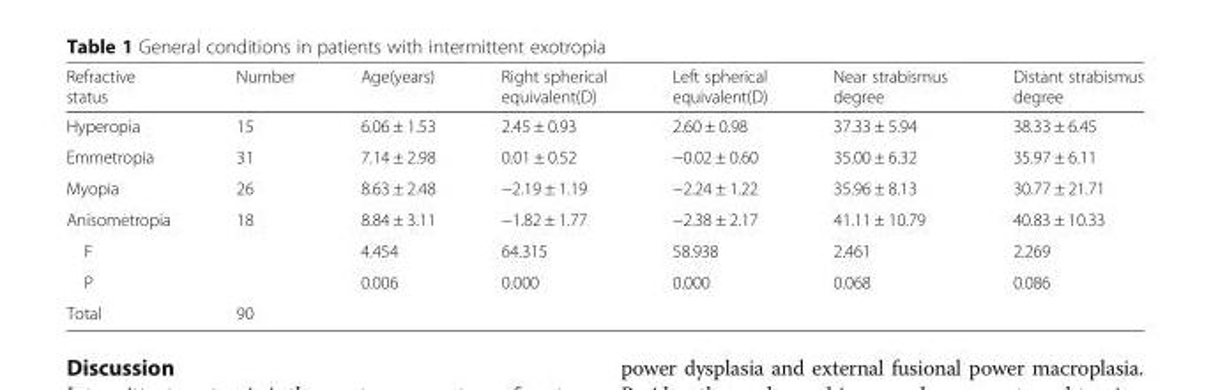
<table><thead><tr><td>Refractive status</td><td>Number</td><td>Age(years)</td><td>Right spherical equivalent(D)</td><td>Left spherical equivalent(D)</td><td>Near strabismus degree</td><td>Distant strabismus degree</td></tr></thead><tbody><tr><td>Hyperopia</td><td>15</td><td>6.06 ± 1.53</td><td>2.45 ± 0.93</td><td>2.60 ± 0.98</td><td>37.33 ± 5.94</td><td>38.33 ± 6.45</td></tr><tr><td>Emmetropia</td><td>31</td><td>7.14 ± 2.98</td><td>0.01 ± 0.52</td><td>−0.02 ± 0.60</td><td>35.00 ± 6.32</td><td>35.97 ± 6.11</td></tr><tr><td>Myopia</td><td>26</td><td>8.63 ± 2.48</td><td>−2.19 ± 1.19</td><td>−2.24 ± 1.22</td><td>35.96 ± 8.13</td><td>30.77 ± 21.71</td></tr><tr><td>Anisometropia</td><td>18</td><td>8.84 ± 3.11</td><td>−1.82 ± 1.77</td><td>−2.38 ± 2.17</td><td>41.11 ± 10.79</td><td>40.83 ± 10.33</td></tr><tr><td>F</td><td></td><td>4.454</td><td>64.315</td><td>58.938</td><td>2.461</td><td>2.269</td></tr><tr><td>P</td><td></td><td>0.006</td><td>0.000</td><td>0.000</td><td>0.068</td><td>0.086</td></tr><tr><td>Total</td><td>90</td><td></td><td></td><td></td><td></td><td></td></tr></tbody></table>